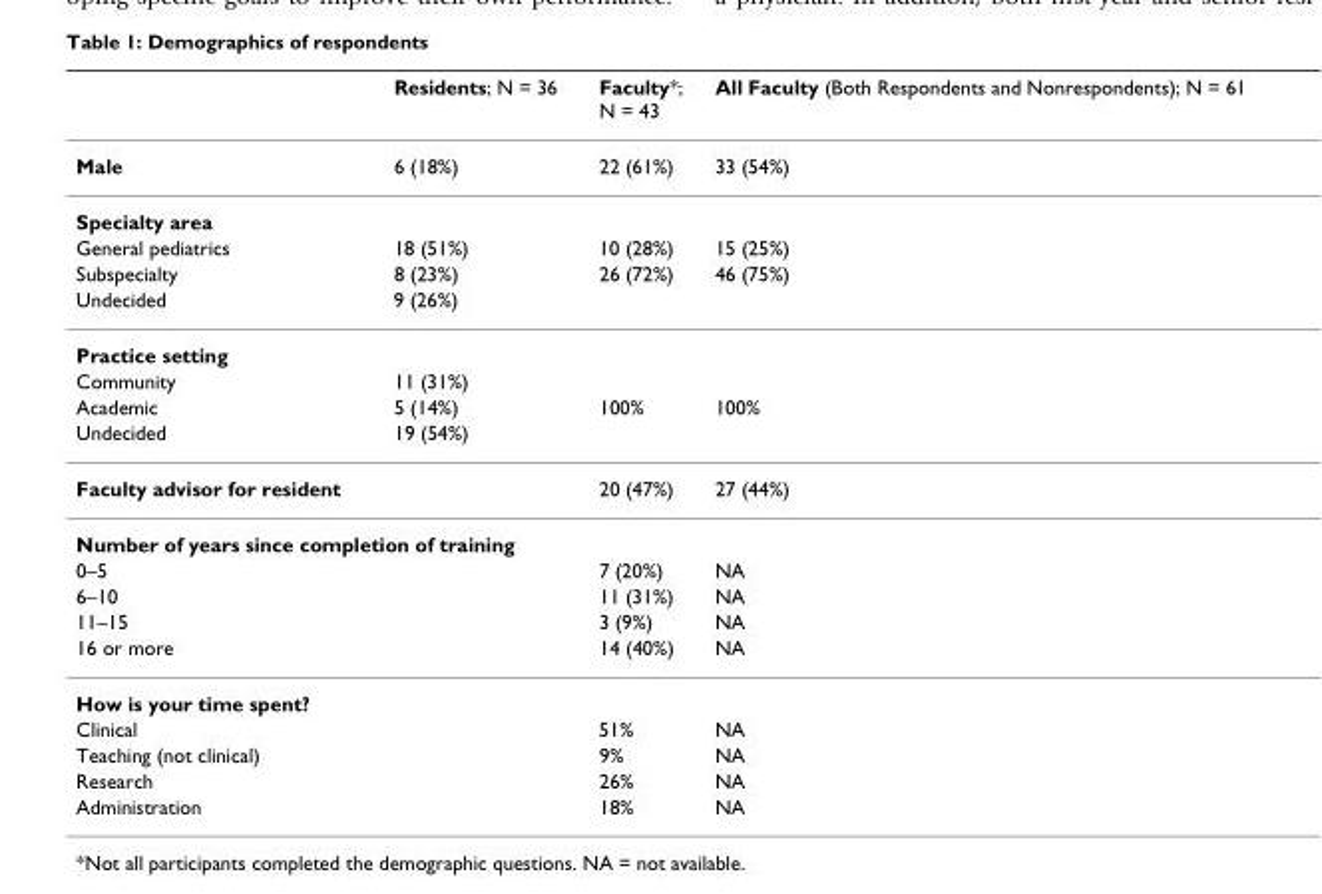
<table><thead><tr><td></td><td>Residents; N = 36</td><td>Faculty*; N = 43</td><td>All Faculty (Both Respondents and Nonrespondents); N = 61</td></tr></thead><tbody><tr><td>Male</td><td>6 (18%)</td><td>22 (61%)</td><td>33 (54%)</td></tr><tr><td colspan="4">Specialty area</td></tr><tr><td>General pediatrics</td><td>18 (51%)</td><td>10 (28%)</td><td>15 (25%)</td></tr><tr><td>Subspecialty</td><td>8 (23%)</td><td>26 (72%)</td><td>46 (75%)</td></tr><tr><td>Undecided</td><td>9 (26%)</td><td></td><td></td></tr><tr><td colspan="4">Practice setting</td></tr><tr><td>Community</td><td>11 (31%)</td><td></td><td></td></tr><tr><td>Academic</td><td>5 (14%)</td><td>100%</td><td>100%</td></tr><tr><td>Undecided</td><td>19 (54%)</td><td></td><td></td></tr><tr><td>Faculty advisor for resident</td><td></td><td>20 (47%)</td><td>27 (44%)</td></tr><tr><td colspan="4">Number of years since completion of training</td></tr><tr><td>0–5</td><td></td><td>7 (20%)</td><td>NA</td></tr><tr><td>6–10</td><td></td><td>11 (31%)</td><td>NA</td></tr><tr><td>11–15</td><td></td><td>3 (9%)</td><td>NA</td></tr><tr><td>16 or more</td><td></td><td>14 (40%)</td><td>NA</td></tr><tr><td colspan="4">How is your time spent?</td></tr><tr><td>Clinical</td><td></td><td>51%</td><td>NA</td></tr><tr><td>Teaching (not clinical)</td><td></td><td>9%</td><td>NA</td></tr><tr><td>Research</td><td></td><td>26%</td><td>NA</td></tr><tr><td>Administration</td><td></td><td>18%</td><td>NA</td></tr></tbody></table>